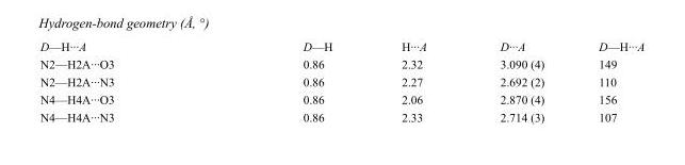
<table><tbody><tr><td>D—H···A</td><td>D—H</td><td>H···A</td><td>D···A</td><td>D—H···A</td></tr><tr><td>N2—H2A···O3</td><td>0.86</td><td>2.32</td><td>3.090 (4)</td><td>149</td></tr><tr><td>N2—H2A···N3</td><td>0.86</td><td>2.27</td><td>2.692 (2)</td><td>110</td></tr><tr><td>N4—H4A···O3</td><td>0.86</td><td>2.06</td><td>2.870 (4)</td><td>156</td></tr><tr><td>N4—H4A···N3</td><td>0.86</td><td>2.33</td><td>2.714 (3)</td><td>107</td></tr></tbody></table>